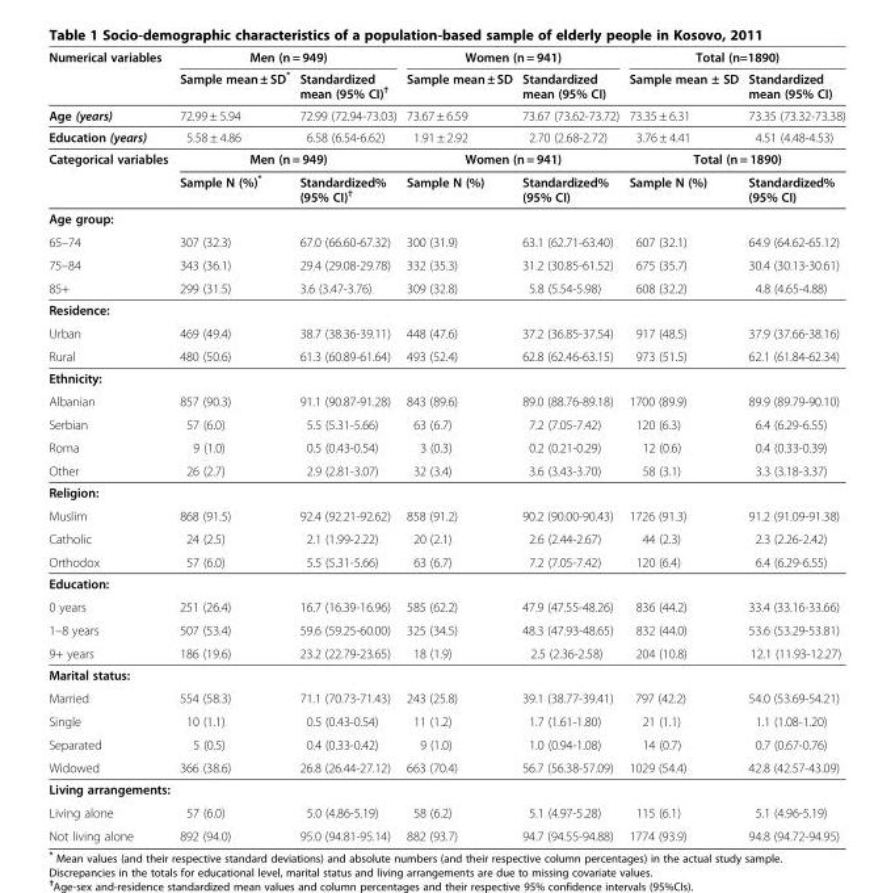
<table><thead><tr><td rowspan="2">Numerical variables</td><td colspan="2">Men (n = 949)</td><td colspan="2">Women (n = 941)</td><td colspan="2">Total (n=1890)</td></tr><tr><td>Sample mean ± SD*</td><td>Standardized mean (95% CI)<sup>†</sup></td><td>Sample mean ± SD</td><td>Standardized mean (95% CI)</td><td>Sample mean ± SD</td><td>Standardized mean (95% CI)</td></tr></thead><tbody><tr><td>Age (years)</td><td>72.99 ± 5.94</td><td>72.99 (72.94-73.03)</td><td>73.67 ± 6.59</td><td>73.67 (73.62-73.72)</td><td>73.35 ± 6.31</td><td>73.35 (73.32-73.38)</td></tr><tr><td>Education (years)</td><td>5.58 ± 4.86</td><td>6.58 (6.54-6.62)</td><td>1.91 ± 2.92</td><td>2.70 (2.68-2.72)</td><td>3.76 ± 4.41</td><td>4.51 (4.48-4.53)</td></tr><tr><td rowspan="2">Categorical variables</td><td colspan="2">Men (n = 949)</td><td colspan="2">Women (n = 941)</td><td colspan="2">Total (n = 1890)</td></tr><tr><td>Sample N (%)*</td><td>Standardized% (95% CI)<sup>†</sup></td><td>Sample N (%)</td><td>Standardized% (95% CI)</td><td>Sample N (%)</td><td>Standardized% (95% CI)</td></tr><tr><td colspan="7">Age group:</td></tr><tr><td>65–74</td><td>307 (32.3)</td><td>67.0 (66.60-67.32)</td><td>300 (31.9)</td><td>63.1 (62.71-63.40)</td><td>607 (32.1)</td><td>64.9 (64.62-65.12)</td></tr><tr><td>75–84</td><td>343 (36.1)</td><td>29.4 (29.08-29.78)</td><td>332 (35.3)</td><td>31.2 (30.85-61.52)</td><td>675 (35.7)</td><td>30.4 (30.13-30.61)</td></tr><tr><td>85+</td><td>299 (31.5)</td><td>3.6 (3.47-3.76)</td><td>309 (32.8)</td><td>5.8 (5.54-5.98)</td><td>608 (32.2)</td><td>4.8 (4.65-4.88)</td></tr><tr><td colspan="7">Residence:</td></tr><tr><td>Urban</td><td>469 (49.4)</td><td>38.7 (38.36-39.11)</td><td>448 (47.6)</td><td>37.2 (36.85-37.54)</td><td>917 (48.5)</td><td>37.9 (37.66-38.16)</td></tr><tr><td>Rural</td><td>480 (50.6)</td><td>61.3 (60.89-61.64)</td><td>493 (52.4)</td><td>62.8 (62.46-63.15)</td><td>973 (51.5)</td><td>62.1 (61.84-62.34)</td></tr><tr><td colspan="7">Ethnicity:</td></tr><tr><td>Albanian</td><td>857 (90.3)</td><td>91.1 (90.87-91.28)</td><td>843 (89.6)</td><td>89.0 (88.76-89.18)</td><td>1700 (89.9)</td><td>89.9 (89.79-90.10)</td></tr><tr><td>Serbian</td><td>57 (6.0)</td><td>5.5 (5.31-5.66)</td><td>63 (6.7)</td><td>7.2 (7.05-7.42)</td><td>120 (6.3)</td><td>6.4 (6.29-6.55)</td></tr><tr><td>Roma</td><td>9 (1.0)</td><td>0.5 (0.43-0.54)</td><td>3 (0.3)</td><td>0.2 (0.21-0.29)</td><td>12 (0.6)</td><td>0.4 (0.33-0.39)</td></tr><tr><td>Other</td><td>26 (2.7)</td><td>2.9 (2.81-3.07)</td><td>32 (3.4)</td><td>3.6 (3.43-3.70)</td><td>58 (3.1)</td><td>3.3 (3.18-3.37)</td></tr><tr><td colspan="7">Religion:</td></tr><tr><td>Muslim</td><td>868 (91.5)</td><td>92.4 (92.21-92.62)</td><td>858 (91.2)</td><td>90.2 (90.00-90.43)</td><td>1726 (91.3)</td><td>91.2 (91.09-91.38)</td></tr><tr><td>Catholic</td><td>24 (2.5)</td><td>2.1 (1.99-2.22)</td><td>20 (2.1)</td><td>2.6 (2.44-2.67)</td><td>44 (2.3)</td><td>2.3 (2.26-2.42)</td></tr><tr><td>Orthodox</td><td>57 (6.0)</td><td>5.5 (5.31-5.66)</td><td>63 (6.7)</td><td>7.2 (7.05-7.42)</td><td>120 (6.4)</td><td>6.4 (6.29-6.55)</td></tr><tr><td colspan="7">Education:</td></tr><tr><td>0 years</td><td>251 (26.4)</td><td>16.7 (16.39-16.96)</td><td>585 (62.2)</td><td>47.9 (47.55-48.26)</td><td>836 (44.2)</td><td>33.4 (33.16-33.66)</td></tr><tr><td>1–8 years</td><td>507 (53.4)</td><td>59.6 (59.25-60.00)</td><td>325 (34.5)</td><td>48.3 (47.93-48.65)</td><td>832 (44.0)</td><td>53.6 (53.29-53.81)</td></tr><tr><td>9+ years</td><td>186 (19.6)</td><td>23.2 (22.79-23.65)</td><td>18 (1.9)</td><td>2.5 (2.36-2.58)</td><td>204 (10.8)</td><td>12.1 (11.93-12.27)</td></tr><tr><td colspan="7">Marital status:</td></tr><tr><td>Married</td><td>554 (58.3)</td><td>71.1 (70.73-71.43)</td><td>243 (25.8)</td><td>39.1 (38.77-39.41)</td><td>797 (42.2)</td><td>54.0 (53.69-54.21)</td></tr><tr><td>Single</td><td>10 (1.1)</td><td>0.5 (0.43-0.54)</td><td>11 (1.2)</td><td>1.7 (1.61-1.80)</td><td>21 (1.1)</td><td>1.1 (1.08-1.20)</td></tr><tr><td>Separated</td><td>5 (0.5)</td><td>0.4 (0.33-0.42)</td><td>9 (1.0)</td><td>1.0 (0.94-1.08)</td><td>14 (0.7)</td><td>0.7 (0.67-0.76)</td></tr><tr><td>Widowed</td><td>366 (38.6)</td><td>26.8 (26.44-27.12)</td><td>663 (70.4)</td><td>56.7 (56.38-57.09)</td><td>1029 (54.4)</td><td>42.8 (42.57-43.09)</td></tr><tr><td colspan="7">Living arrangements:</td></tr><tr><td>Living alone</td><td>57 (6.0)</td><td>5.0 (4.86-5.19)</td><td>58 (6.2)</td><td>5.1 (4.97-5.28)</td><td>115 (6.1)</td><td>5.1 (4.96-5.19)</td></tr><tr><td>Not living alone</td><td>892 (94.0)</td><td>95.0 (94.81-95.14)</td><td>882 (93.7)</td><td>94.7 (94.55-94.88)</td><td>1774 (93.9)</td><td>94.8 (94.72-94.95)</td></tr></tbody></table>